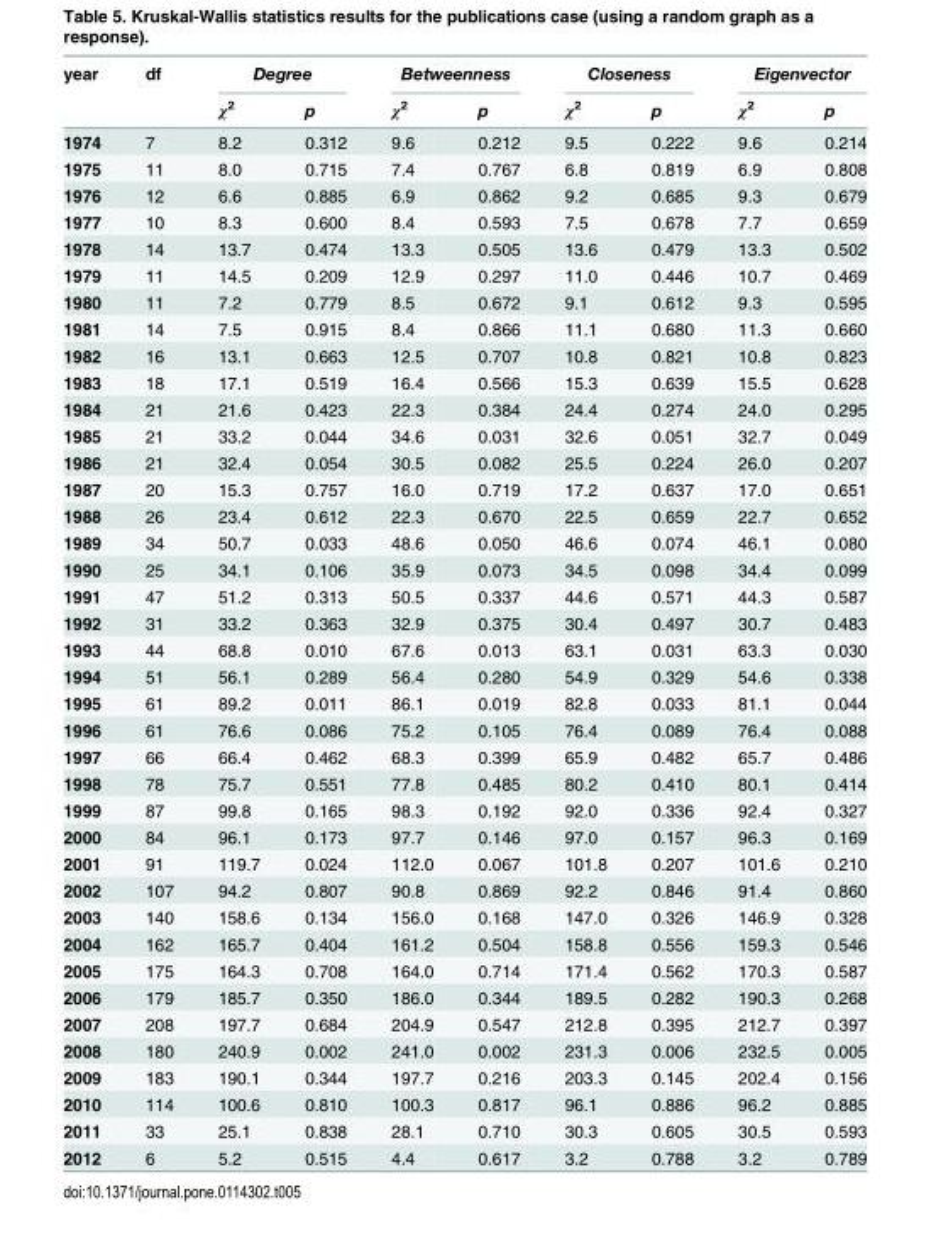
<table><thead><tr><td rowspan="2">year</td><td rowspan="2">df</td><td colspan="2">Degree</td><td colspan="2">Betweenness</td><td colspan="2">Closeness</td><td colspan="2">Eigenvector</td></tr><tr><td>χ<sup>2</sup></td><td>p</td><td>χ<sup>2</sup></td><td>p</td><td>χ<sup>2</sup></td><td>p</td><td>χ<sup>2</sup></td><td>p</td></tr></thead><tbody><tr><td>1974</td><td>7</td><td>8.2</td><td>0.312</td><td>9.6</td><td>0.212</td><td>9.5</td><td>0.222</td><td>9.6</td><td>0.214</td></tr><tr><td>1975</td><td>11</td><td>8.0</td><td>0.715</td><td>7.4</td><td>0.767</td><td>6.8</td><td>0.819</td><td>6.9</td><td>0.808</td></tr><tr><td>1976</td><td>12</td><td>6.6</td><td>0.885</td><td>6.9</td><td>0.862</td><td>9.2</td><td>0.685</td><td>9.3</td><td>0.679</td></tr><tr><td>1977</td><td>10</td><td>8.3</td><td>0.600</td><td>8.4</td><td>0.593</td><td>7.5</td><td>0.678</td><td>7.7</td><td>0.659</td></tr><tr><td>1978</td><td>14</td><td>13.7</td><td>0.474</td><td>13.3</td><td>0.505</td><td>13.6</td><td>0.479</td><td>13.3</td><td>0.502</td></tr><tr><td>1979</td><td>11</td><td>14.5</td><td>0.209</td><td>12.9</td><td>0.297</td><td>11.0</td><td>0.446</td><td>10.7</td><td>0.469</td></tr><tr><td>1980</td><td>11</td><td>7.2</td><td>0.779</td><td>8.5</td><td>0.672</td><td>9.1</td><td>0.612</td><td>9.3</td><td>0.595</td></tr><tr><td>1981</td><td>14</td><td>7.5</td><td>0.915</td><td>8.4</td><td>0.866</td><td>11.1</td><td>0.680</td><td>11.3</td><td>0.660</td></tr><tr><td>1982</td><td>16</td><td>13.1</td><td>0.663</td><td>12.5</td><td>0.707</td><td>10.8</td><td>0.821</td><td>10.8</td><td>0.823</td></tr><tr><td>1983</td><td>18</td><td>17.1</td><td>0.519</td><td>16.4</td><td>0.566</td><td>15.3</td><td>0.639</td><td>15.5</td><td>0.628</td></tr><tr><td>1984</td><td>21</td><td>21.6</td><td>0.423</td><td>22.3</td><td>0.384</td><td>24.4</td><td>0.274</td><td>24.0</td><td>0.295</td></tr><tr><td>1985</td><td>21</td><td>33.2</td><td>0.044</td><td>34.6</td><td>0.031</td><td>32.6</td><td>0.051</td><td>32.7</td><td>0.049</td></tr><tr><td>1986</td><td>21</td><td>32.4</td><td>0.054</td><td>30.5</td><td>0.082</td><td>25.5</td><td>0.224</td><td>26.0</td><td>0.207</td></tr><tr><td>1987</td><td>20</td><td>15.3</td><td>0.757</td><td>16.0</td><td>0.719</td><td>17.2</td><td>0.637</td><td>17.0</td><td>0.651</td></tr><tr><td>1988</td><td>26</td><td>23.4</td><td>0.612</td><td>22.3</td><td>0.670</td><td>22.5</td><td>0.659</td><td>22.7</td><td>0.652</td></tr><tr><td>1989</td><td>34</td><td>50.7</td><td>0.033</td><td>48.6</td><td>0.050</td><td>46.6</td><td>0.074</td><td>46.1</td><td>0.080</td></tr><tr><td>1990</td><td>25</td><td>34.1</td><td>0.106</td><td>35.9</td><td>0.073</td><td>34.5</td><td>0.098</td><td>34.4</td><td>0.099</td></tr><tr><td>1991</td><td>47</td><td>51.2</td><td>0.313</td><td>50.5</td><td>0.337</td><td>44.6</td><td>0.571</td><td>44.3</td><td>0.587</td></tr><tr><td>1992</td><td>31</td><td>33.2</td><td>0.363</td><td>32.9</td><td>0.375</td><td>30.4</td><td>0.497</td><td>30.7</td><td>0.483</td></tr><tr><td>1993</td><td>44</td><td>68.8</td><td>0.010</td><td>67.6</td><td>0.013</td><td>63.1</td><td>0.031</td><td>63.3</td><td>0.030</td></tr><tr><td>1994</td><td>51</td><td>56.1</td><td>0.289</td><td>56.4</td><td>0.280</td><td>54.9</td><td>0.329</td><td>54.6</td><td>0.338</td></tr><tr><td>1995</td><td>61</td><td>89.2</td><td>0.011</td><td>86.1</td><td>0.019</td><td>82.8</td><td>0.033</td><td>81.1</td><td>0.044</td></tr><tr><td>1996</td><td>61</td><td>76.6</td><td>0.086</td><td>75.2</td><td>0.105</td><td>76.4</td><td>0.089</td><td>76.4</td><td>0.088</td></tr><tr><td>1997</td><td>66</td><td>66.4</td><td>0.462</td><td>68.3</td><td>0.399</td><td>65.9</td><td>0.482</td><td>65.7</td><td>0.486</td></tr><tr><td>1998</td><td>78</td><td>75.7</td><td>0.551</td><td>77.8</td><td>0.485</td><td>80.2</td><td>0.410</td><td>80.1</td><td>0.414</td></tr><tr><td>1999</td><td>87</td><td>99.8</td><td>0.165</td><td>98.3</td><td>0.192</td><td>92.0</td><td>0.336</td><td>92.4</td><td>0.327</td></tr><tr><td>2000</td><td>84</td><td>96.1</td><td>0.173</td><td>97.7</td><td>0.146</td><td>97.0</td><td>0.157</td><td>96.3</td><td>0.169</td></tr><tr><td>2001</td><td>91</td><td>119.7</td><td>0.024</td><td>112.0</td><td>0.067</td><td>101.8</td><td>0.207</td><td>101.6</td><td>0.210</td></tr><tr><td>2002</td><td>107</td><td>94.2</td><td>0.807</td><td>90.8</td><td>0.869</td><td>92.2</td><td>0.846</td><td>91.4</td><td>0.860</td></tr><tr><td>2003</td><td>140</td><td>158.6</td><td>0.134</td><td>156.0</td><td>0.168</td><td>147.0</td><td>0.326</td><td>146.9</td><td>0.328</td></tr><tr><td>2004</td><td>162</td><td>165.7</td><td>0.404</td><td>161.2</td><td>0.504</td><td>158.8</td><td>0.556</td><td>159.3</td><td>0.546</td></tr><tr><td>2005</td><td>175</td><td>164.3</td><td>0.708</td><td>164.0</td><td>0.714</td><td>171.4</td><td>0.562</td><td>170.3</td><td>0.587</td></tr><tr><td>2006</td><td>179</td><td>185.7</td><td>0.350</td><td>186.0</td><td>0.344</td><td>189.5</td><td>0.282</td><td>190.3</td><td>0.268</td></tr><tr><td>2007</td><td>208</td><td>197.7</td><td>0.684</td><td>204.9</td><td>0.547</td><td>212.8</td><td>0.395</td><td>212.7</td><td>0.397</td></tr><tr><td>2008</td><td>180</td><td>240.9</td><td>0.002</td><td>241.0</td><td>0.002</td><td>231.3</td><td>0.006</td><td>232.5</td><td>0.005</td></tr><tr><td>2009</td><td>183</td><td>190.1</td><td>0.344</td><td>197.7</td><td>0.216</td><td>203.3</td><td>0.145</td><td>202.4</td><td>0.156</td></tr><tr><td>2010</td><td>114</td><td>100.6</td><td>0.810</td><td>100.3</td><td>0.817</td><td>96.1</td><td>0.886</td><td>96.2</td><td>0.885</td></tr><tr><td>2011</td><td>33</td><td>25.1</td><td>0.838</td><td>28.1</td><td>0.710</td><td>30.3</td><td>0.605</td><td>30.5</td><td>0.593</td></tr><tr><td>2012</td><td>6</td><td>5.2</td><td>0.515</td><td>4.4</td><td>0.617</td><td>3.2</td><td>0.788</td><td>3.2</td><td>0.789</td></tr></tbody></table>